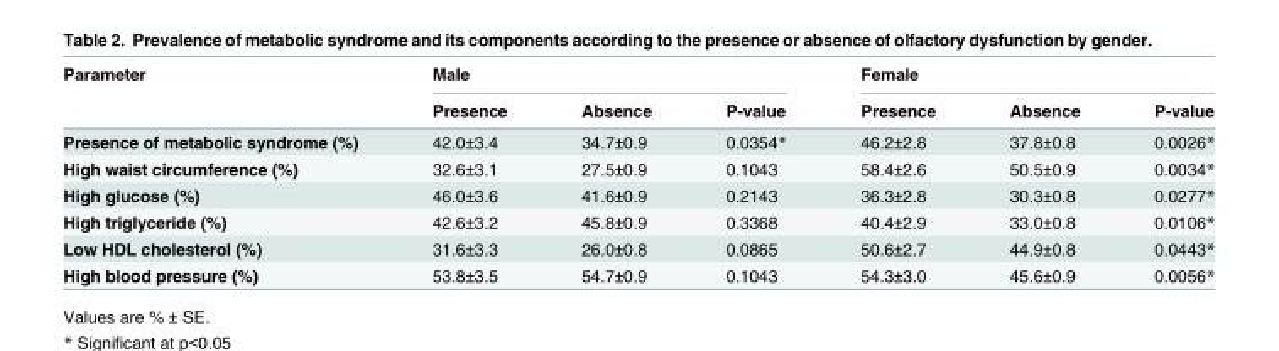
<table><thead><tr><td rowspan="2">Parameter</td><td colspan="3">Male</td><td colspan="3">Female</td></tr><tr><td>Presence</td><td>Absence</td><td>P-value</td><td>Presence</td><td>Absence</td><td>P-value</td></tr></thead><tbody><tr><td>Presence of metabolic syndrome (%)</td><td>42.0±3.4</td><td>34.7±0.9</td><td>0.0354*</td><td>46.2±2.8</td><td>37.8±0.8</td><td>0.0026*</td></tr><tr><td>High waist circumference (%)</td><td>32.6±3.1</td><td>27.5±0.9</td><td>0.1043</td><td>58.4±2.6</td><td>50.5±0.9</td><td>0.0034*</td></tr><tr><td>High glucose (%)</td><td>46.0±3.6</td><td>41.6±0.9</td><td>0.2143</td><td>36.3±2.8</td><td>30.3±0.8</td><td>0.0277*</td></tr><tr><td>High triglyceride (%)</td><td>42.6±3.2</td><td>45.8±0.9</td><td>0.3368</td><td>40.4±2.9</td><td>33.0±0.8</td><td>0.0106*</td></tr><tr><td>Low HDL cholesterol (%)</td><td>31.6±3.3</td><td>26.0±0.8</td><td>0.0865</td><td>50.6±2.7</td><td>44.9±0.8</td><td>0.0443*</td></tr><tr><td>High blood pressure (%)</td><td>53.8±3.5</td><td>54.7±0.9</td><td>0.1043</td><td>54.3±3.0</td><td>45.6±0.9</td><td>0.0056*</td></tr></tbody></table>